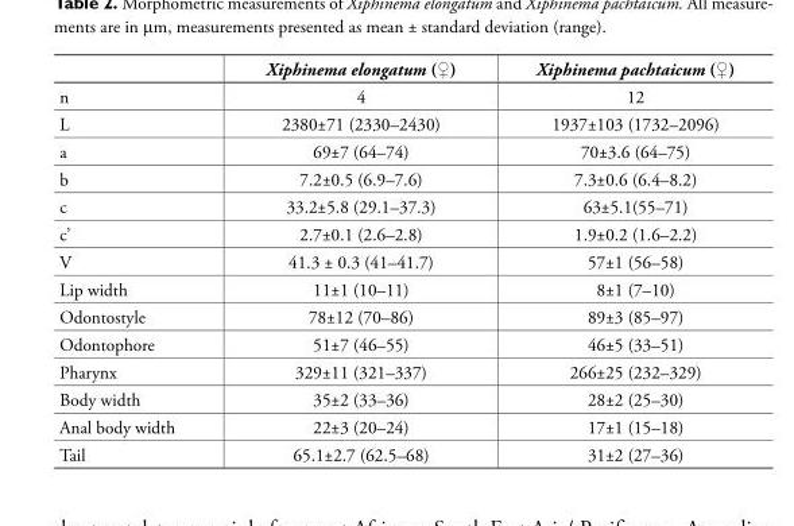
<table><thead><tr><td></td><td>Xiphinema elongatum (♀)</td><td>Xiphinema pachtaicum (♀)</td></tr></thead><tbody><tr><td>n</td><td>4</td><td>12</td></tr><tr><td>L</td><td>2380±71 (2330–2430)</td><td>1937±103 (1732–2096)</td></tr><tr><td>a</td><td>69±7 (64–74)</td><td>70±3.6 (64–75)</td></tr><tr><td>b</td><td>7.2±0.5 (6.9–7.6)</td><td>7.3±0.6 (6.4–8.2)</td></tr><tr><td>c</td><td>33.2±5.8 (29.1–37.3)</td><td>63±5.1(55–71)</td></tr><tr><td>c’</td><td>2.7±0.1 (2.6–2.8)</td><td>1.9±0.2 (1.6–2.2)</td></tr><tr><td>V</td><td>41.3 ± 0.3 (41–41.7)</td><td>57±1 (56–58)</td></tr><tr><td>Lip width</td><td>11±1 (10–11)</td><td>8±1 (7–10)</td></tr><tr><td>Odontostyle</td><td>78±12 (70–86)</td><td>89±3 (85–97)</td></tr><tr><td>Odontophore</td><td>51±7 (46–55)</td><td>46±5 (33–51)</td></tr><tr><td>Pharynx</td><td>329±11 (321–337)</td><td>266±25 (232–329)</td></tr><tr><td>Body width</td><td>35±2 (33–36)</td><td>28±2 (25–30)</td></tr><tr><td>Anal body width</td><td>22±3 (20–24)</td><td>17±1 (15–18)</td></tr><tr><td>Tail</td><td>65.1±2.7 (62.5–68)</td><td>31±2 (27–36)</td></tr></tbody></table>